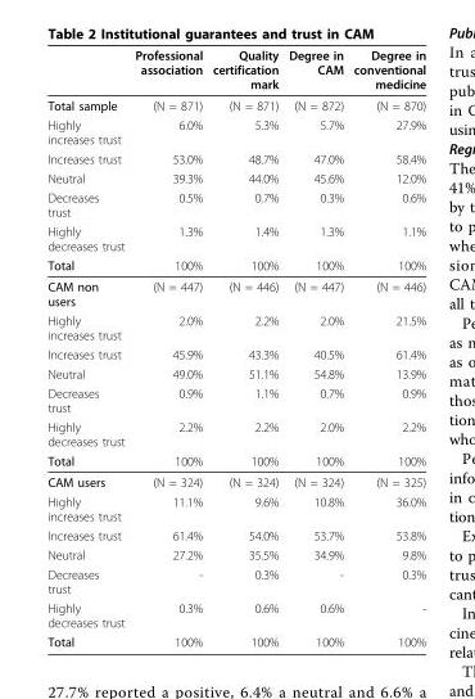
<table><thead><tr><td></td><td>Professional association</td><td>Quality certification mark</td><td>Degree in CAM</td><td>Degree in conventional medicine</td></tr></thead><tbody><tr><td>Total sample</td><td>(N = 871)</td><td>(N = 871)</td><td>(N = 872)</td><td>(N = 870)</td></tr><tr><td>Highly increases trust</td><td>6.0%</td><td>5.3%</td><td>5.7%</td><td>27.9%</td></tr><tr><td>Increases trust</td><td>53.0%</td><td>48.7%</td><td>47.0%</td><td>58.4%</td></tr><tr><td>Neutral</td><td>39.3%</td><td>44.0%</td><td>45.6%</td><td>12.0%</td></tr><tr><td>Decreases trust</td><td>0.5%</td><td>0.7%</td><td>0.3%</td><td>0.6%</td></tr><tr><td>Highly decreases trust</td><td>1.3%</td><td>1.4%</td><td>1.3%</td><td>1.1%</td></tr><tr><td>Total</td><td>100%</td><td>100%</td><td>100%</td><td>100%</td></tr><tr><td>CAM non users</td><td>(N = 447)</td><td>(N = 446)</td><td>(N = 447)</td><td>(N = 446)</td></tr><tr><td>Highly increases trust</td><td>2.0%</td><td>2.2%</td><td>2.0%</td><td>21.5%</td></tr><tr><td>Increases trust</td><td>45.9%</td><td>43.3%</td><td>40.5%</td><td>61.4%</td></tr><tr><td>Neutral</td><td>49.0%</td><td>51.1%</td><td>54.8%</td><td>13.9%</td></tr><tr><td>Decreases trust</td><td>0.9%</td><td>1.1%</td><td>0.7%</td><td>0.9%</td></tr><tr><td>Highly decreases trust</td><td>2.2%</td><td>2.2%</td><td>2.0%</td><td>2.2%</td></tr><tr><td>Total</td><td>100%</td><td>100%</td><td>100%</td><td>100%</td></tr><tr><td>CAM users</td><td>(N = 324)</td><td>(N = 324)</td><td>(N = 324)</td><td>(N = 325)</td></tr><tr><td>Highly increases trust</td><td>11.1%</td><td>9.6%</td><td>10.8%</td><td>36.0%</td></tr><tr><td>Increases trust</td><td>61.4%</td><td>54.0%</td><td>53.7%</td><td>53.8%</td></tr><tr><td>Neutral</td><td>27.2%</td><td>35.5%</td><td>34.9%</td><td>9.8%</td></tr><tr><td>Decreases trust</td><td>-</td><td>0.3%</td><td>-</td><td>0.3%</td></tr><tr><td>Highly decreases trust</td><td>0.3%</td><td>0.6%</td><td>0.6%</td><td>-</td></tr><tr><td>Total</td><td>100%</td><td>100%</td><td>100%</td><td>100%</td></tr></tbody></table>